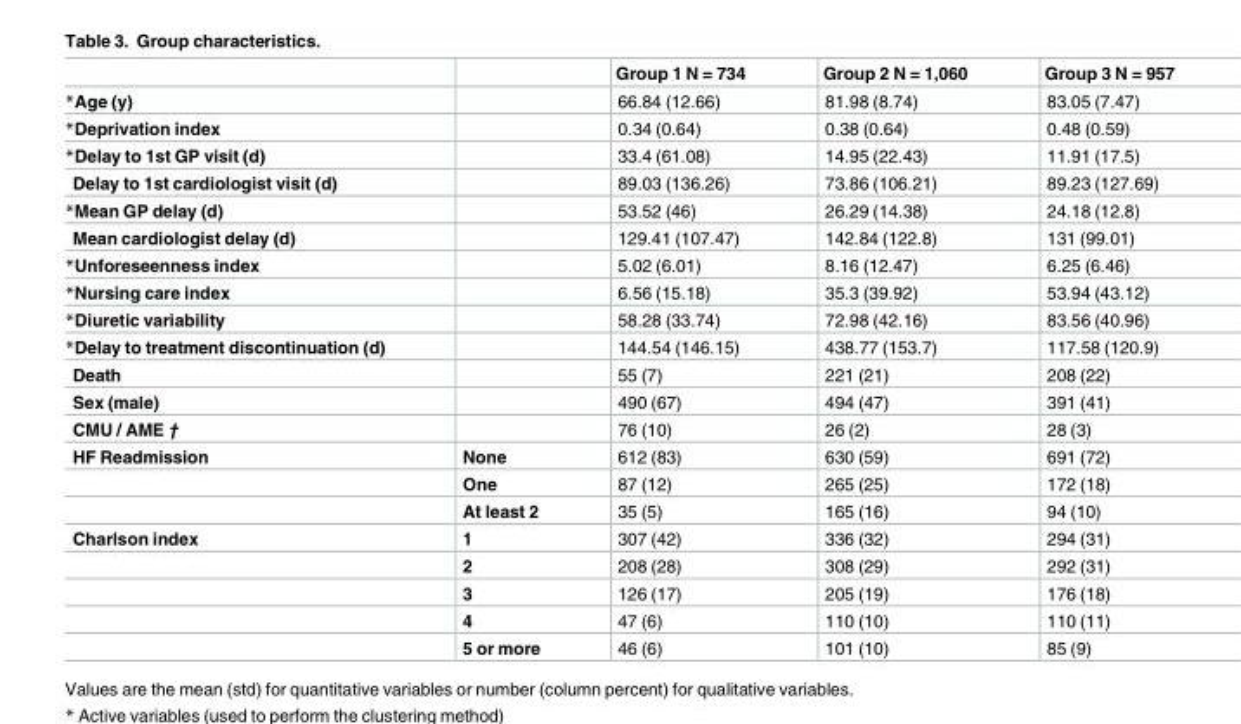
<table><thead><tr><td></td><td></td><td>Group 1 N = 734</td><td>Group 2 N = 1,060</td><td>Group 3 N = 957</td></tr></thead><tbody><tr><td>*Age (y)</td><td></td><td>66.84 (12.66)</td><td>81.98 (8.74)</td><td>83.05 (7.47)</td></tr><tr><td>*Deprivation index</td><td></td><td>0.34 (0.64)</td><td>0.38 (0.64)</td><td>0.48 (0.59)</td></tr><tr><td>*Delay to 1st GP visit (d)</td><td></td><td>33.4 (61.08)</td><td>14.95 (22.43)</td><td>11.91 (17.5)</td></tr><tr><td>Delay to 1st cardiologist visit (d)</td><td></td><td>89.03 (136.26)</td><td>73.86 (106.21)</td><td>89.23 (127.69)</td></tr><tr><td>*Mean GP delay (d)</td><td></td><td>53.52 (46)</td><td>26.29 (14.38)</td><td>24.18 (12.8)</td></tr><tr><td>Mean cardiologist delay (d)</td><td></td><td>129.41 (107.47)</td><td>142.84 (122.8)</td><td>131 (99.01)</td></tr><tr><td>*Unforeseenness index</td><td></td><td>5.02 (6.01)</td><td>8.16 (12.47)</td><td>6.25 (6.46)</td></tr><tr><td>*Nursing care index</td><td></td><td>6.56 (15.18)</td><td>35.3 (39.92)</td><td>53.94 (43.12)</td></tr><tr><td>*Diuretic variability</td><td></td><td>58.28 (33.74)</td><td>72.98 (42.16)</td><td>83.56 (40.96)</td></tr><tr><td>*Delay to treatment discontinuation (d)</td><td></td><td>144.54 (146.15)</td><td>438.77 (153.7)</td><td>117.58 (120.9)</td></tr><tr><td>Death</td><td></td><td>55 (7)</td><td>221 (21)</td><td>208 (22)</td></tr><tr><td>Sex (male)</td><td></td><td>490 (67)</td><td>494 (47)</td><td>391 (41)</td></tr><tr><td>CMU / AME †</td><td></td><td>76 (10)</td><td>26 (2)</td><td>28 (3)</td></tr><tr><td rowspan="3">HF Readmission</td><td>None</td><td>612 (83)</td><td>630 (59)</td><td>691 (72)</td></tr><tr><td>One</td><td>87 (12)</td><td>265 (25)</td><td>172 (18)</td></tr><tr><td>At least 2</td><td>35 (5)</td><td>165 (16)</td><td>94 (10)</td></tr><tr><td rowspan="5">Charlson index</td><td>1</td><td>307 (42)</td><td>336 (32)</td><td>294 (31)</td></tr><tr><td>2</td><td>208 (28)</td><td>308 (29)</td><td>292 (31)</td></tr><tr><td>3</td><td>126 (17)</td><td>205 (19)</td><td>176 (18)</td></tr><tr><td>4</td><td>47 (6)</td><td>110 (10)</td><td>110 (11)</td></tr><tr><td>5 or more</td><td>46 (6)</td><td>101 (10)</td><td>85 (9)</td></tr></tbody></table>